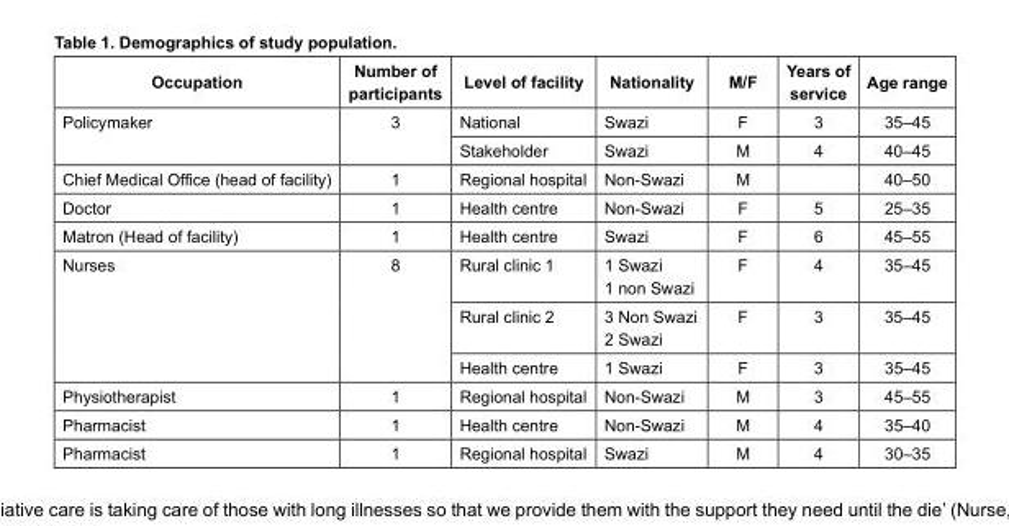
<table><thead><tr><td>Occupation</td><td>Number of participants</td><td>Level of facility</td><td>Nationality</td><td>M/F</td><td>Years of service</td><td>Age range</td></tr></thead><tbody><tr><td rowspan="2">Policymaker</td><td rowspan="2">3</td><td>National</td><td>Swazi</td><td>F</td><td>3</td><td>35–45</td></tr><tr><td>Stakeholder</td><td>Swazi</td><td>M</td><td>4</td><td>40–45</td></tr><tr><td>Chief Medical Office (head of facility)</td><td>1</td><td>Regional hospital</td><td>Non-Swazi</td><td>M</td><td></td><td>40–50</td></tr><tr><td>Doctor</td><td>1</td><td>Health centre</td><td>Non-Swazi</td><td>F</td><td>5</td><td>25–35</td></tr><tr><td>Matron (Head of facility)</td><td>1</td><td>Health centre</td><td>Swazi</td><td>F</td><td>6</td><td>45–55</td></tr><tr><td rowspan="3">Nurses</td><td rowspan="3">8</td><td>Rural clinic 1</td><td>1 Swazi 1 non Swazi</td><td>F</td><td>4</td><td>35–45</td></tr><tr><td>Rural clinic 2</td><td>3 Non Swazi 2 Swazi</td><td>F</td><td>3</td><td>35–45</td></tr><tr><td>Health centre</td><td>1 Swazi</td><td>F</td><td>3</td><td>35–45</td></tr><tr><td>Physiotherapist</td><td>1</td><td>Regional hospital</td><td>Non-Swazi</td><td>M</td><td>3</td><td>45–55</td></tr><tr><td>Pharmacist</td><td>1</td><td>Health centre</td><td>Non-Swazi</td><td>M</td><td>4</td><td>35–40</td></tr><tr><td>Pharmacist</td><td>1</td><td>Regional hospital</td><td>Swazi</td><td>M</td><td>4</td><td>30–35</td></tr></tbody></table>